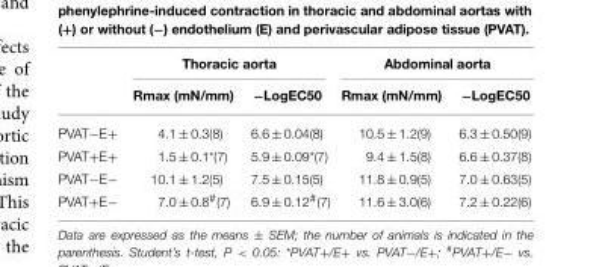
<table><thead><tr><td rowspan="2"></td><td colspan="2">Thoracic aorta</td><td colspan="2">Abdominal aorta</td></tr><tr><td>Rmax (mN/mm)</td><td>−LogEC50</td><td>Rmax (mN/mm)</td><td>−LogEC50</td></tr></thead><tbody><tr><td>PVAT−E+</td><td>4.1 ± 0.3(8)</td><td>6.6 ± 0.04(8)</td><td>10.5 ± 1.2(9)</td><td>6.3 ± 0.50(9)</td></tr><tr><td>PVAT+E+</td><td>1.5 ± 0.1*(7)</td><td>5.9 ± 0.09*(7)</td><td>9.4 ± 1.5(8)</td><td>6.6 ± 0.37(8)</td></tr><tr><td>PVAT−E−</td><td>10.1 ± 1.2(5)</td><td>7.5 ± 0.15(5)</td><td>11.8 ± 0.9(5)</td><td>7.0 ± 0.63(5)</td></tr><tr><td>PVAT+E−</td><td>7.0 ± 0.8<sup>#</sup>(7)</td><td>6.9 ± 0.12<sup>#</sup>(7)</td><td>11.6 ± 3.0(6)</td><td>7.2 ± 0.22(6)</td></tr></tbody></table>